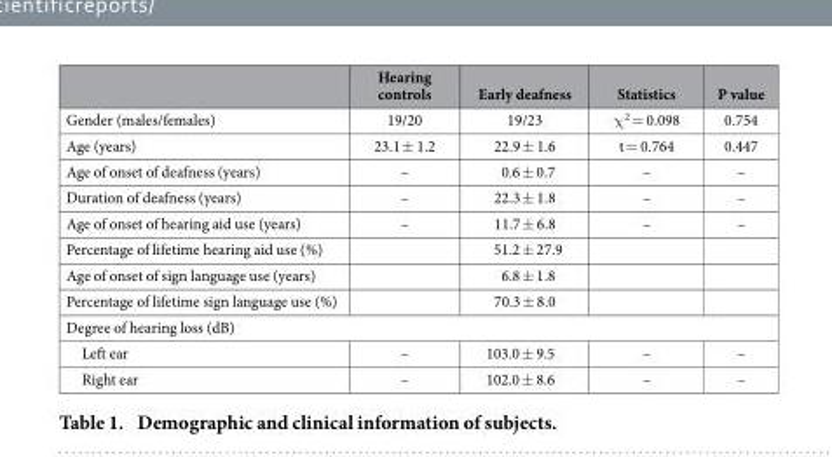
<table><thead><tr><td></td><td>Hearing controls</td><td>Early deafness</td><td>Statistics</td><td>P value</td></tr></thead><tbody><tr><td>Gender (males/females)</td><td>19/20</td><td>19/23</td><td>χ <sup>2</sup> = 0.098</td><td>0.754</td></tr><tr><td>Age (years)</td><td>23.1 ± 1.2</td><td>22.9 ± 1.6</td><td>t = 0.764</td><td>0.447</td></tr><tr><td>Age of onset of deafness (years)</td><td>–</td><td>0.6 ± 0.7</td><td>–</td><td>–</td></tr><tr><td>Duration of deafness (years)</td><td>–</td><td>22.3 ± 1.8</td><td>–</td><td>–</td></tr><tr><td>Age of onset of hearing aid use (years)</td><td>–</td><td>11.7 ± 6.8</td><td>–</td><td>–</td></tr><tr><td>Percentage of lifetime hearing aid use (%)</td><td></td><td>51.2 ± 27.9</td><td></td><td></td></tr><tr><td>Age of onset of sign language use (years)</td><td></td><td>6.8 ± 1.8</td><td></td><td></td></tr><tr><td>Percentage of lifetime sign language use (%)</td><td></td><td>70.3 ± 8.0</td><td></td><td></td></tr><tr><td colspan="5">Degree of hearing loss (dB)</td></tr><tr><td>Left ear</td><td>–</td><td>103.0 ± 9.5</td><td>–</td><td>–</td></tr><tr><td>Right ear</td><td>–</td><td>102.0 ± 8.6</td><td>–</td><td>–</td></tr></tbody></table>